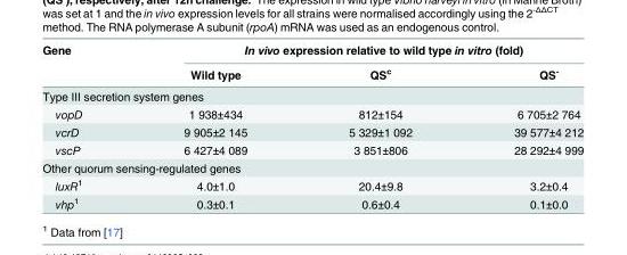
<table><thead><tr><td rowspan="2">Gene</td><td colspan="3">In vivo expression relative to wild type in vitro (fold)</td></tr><tr><td>Wild type</td><td>QS<sup>c</sup></td><td>QS<sup>-</sup></td></tr></thead><tbody><tr><td colspan="4">Type III secretion system genes</td></tr><tr><td>vopD</td><td>1 938±434</td><td>812±154</td><td>6 705±2 764</td></tr><tr><td>vcrD</td><td>9 905±2 145</td><td>5 329±1 092</td><td>39 577±4 212</td></tr><tr><td>vscP</td><td>6 427±4 089</td><td>3 851±806</td><td>28 292±4 999</td></tr><tr><td colspan="4">Other quorum sensing-regulated genes</td></tr><tr><td>luxR<sup>1</sup></td><td>4.0±1.0</td><td>20.4±9.8</td><td>3.2±0.4</td></tr><tr><td>vhp<sup>1</sup></td><td>0.3±0.1</td><td>0.6±0.4</td><td>0.1±0.0</td></tr></tbody></table>